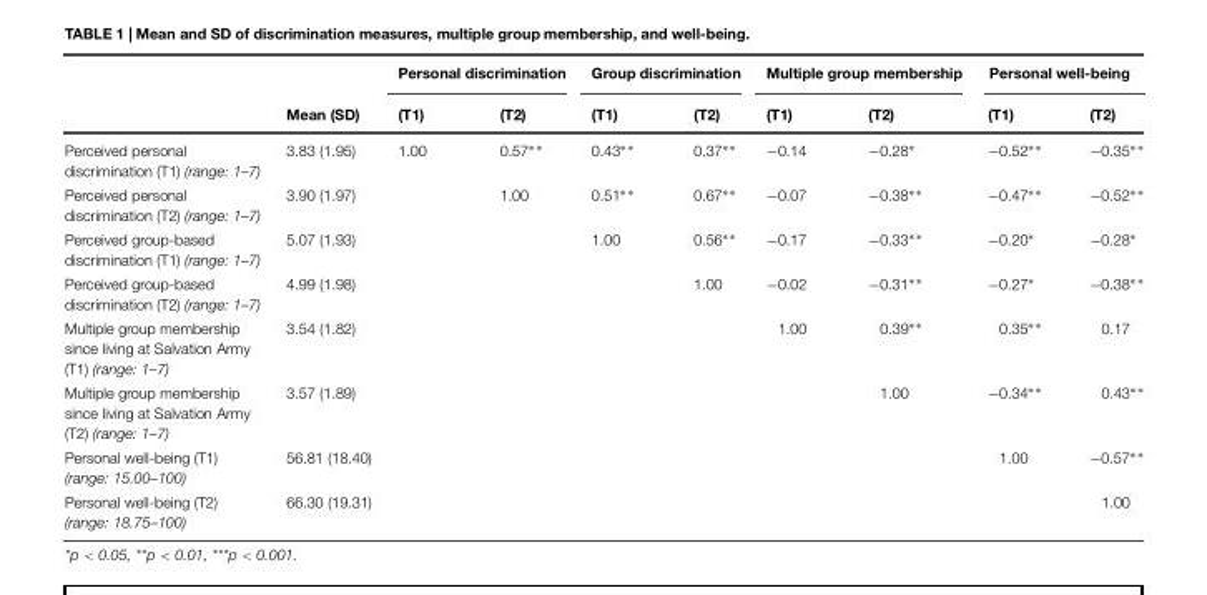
<table><thead><tr><td rowspan="2"></td><td rowspan="2">Mean (SD)</td><td colspan="2">Personal discrimination</td><td colspan="2">Group discrimination</td><td colspan="2">Multiple group membership</td><td colspan="2">Personal well-being</td></tr><tr><td>(T1)</td><td>(T2)</td><td>(T1)</td><td>(T2)</td><td>(T1)</td><td>(T2)</td><td>(T1)</td><td>(T2)</td></tr></thead><tbody><tr><td>Perceived personal discrimination (T1) (range: 1–7)</td><td>3.83 (1.95)</td><td>1.00</td><td>0.57∗∗</td><td>0.43∗∗</td><td>0.37∗∗</td><td>−0.14</td><td>−0.28∗</td><td>−0.52∗∗</td><td>−0.35∗ ∗</td></tr><tr><td>Perceived personal discrimination (T2) (range: 1–7)</td><td>3.90 (1.97)</td><td></td><td>1.00</td><td>0.51∗∗</td><td>0.67∗∗</td><td>−0.07</td><td>−0.38∗∗</td><td>−0.47∗∗</td><td>−0.52∗ ∗</td></tr><tr><td>Perceived group-based discrimination (T1) (range: 1–7)</td><td>5.07 (1.93)</td><td></td><td></td><td>1.00</td><td>0.56∗∗</td><td>−0.17</td><td>−0.33∗∗</td><td>−0.20∗</td><td>−0.28∗</td></tr><tr><td>Perceived group-based discrimination (T2) (range: 1–7)</td><td>4.99 (1.98)</td><td></td><td></td><td></td><td>1.00</td><td>−0.02</td><td>−0.31∗∗</td><td>−0.27∗</td><td>−0.38∗ ∗</td></tr><tr><td>Multiple group membership since living at Salvation Army (T1) (range: 1–7)</td><td>3.54 (1.82)</td><td></td><td></td><td></td><td></td><td>1.00</td><td>0.39∗∗</td><td>0.35∗∗</td><td>0.17</td></tr><tr><td>Multiple group membership since living at Salvation Army (T2) (range: 1–7)</td><td>3.57 (1.89)</td><td></td><td></td><td></td><td></td><td></td><td>1.00</td><td>−0.34∗∗</td><td>0.43∗∗</td></tr><tr><td>Personal well-being (T1) (range: 15.00–100)</td><td>56.81 (18.40)</td><td></td><td></td><td></td><td></td><td></td><td></td><td>1.00</td><td>−0.57∗ ∗</td></tr><tr><td>Personal well-being (T2) (range: 18.75–100)</td><td>66.30 (19.31)</td><td></td><td></td><td></td><td></td><td></td><td></td><td></td><td>1.00</td></tr></tbody></table>